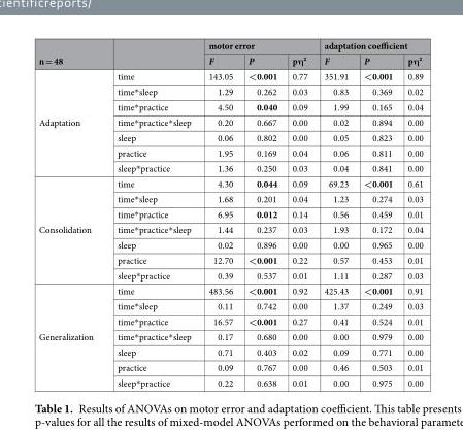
<table><thead><tr><td rowspan="2">n = 48</td><td rowspan="2"></td><td colspan="3">motor error</td><td colspan="3">adaptation coefficient</td></tr><tr><td>F</td><td>P</td><td>pη²</td><td>F</td><td>P</td><td>pη²</td></tr></thead><tbody><tr><td rowspan="7">Adaptation</td><td>time</td><td>143.05</td><td>&lt;0.001</td><td>0.77</td><td>351.91</td><td>&lt;0.001</td><td>0.89</td></tr><tr><td>time*sleep</td><td>1.29</td><td>0.262</td><td>0.03</td><td>0.83</td><td>0.369</td><td>0.02</td></tr><tr><td>time*practice</td><td>4.50</td><td>0.040</td><td>0.09</td><td>1.99</td><td>0.165</td><td>0.04</td></tr><tr><td>time*practice*sleep</td><td>0.20</td><td>0.667</td><td>0.00</td><td>0.02</td><td>0.894</td><td>0.00</td></tr><tr><td>sleep</td><td>0.06</td><td>0.802</td><td>0.00</td><td>0.05</td><td>0.823</td><td>0.00</td></tr><tr><td>practice</td><td>1.95</td><td>0.169</td><td>0.04</td><td>0.06</td><td>0.811</td><td>0.00</td></tr><tr><td>sleep*practice</td><td>1.36</td><td>0.250</td><td>0.03</td><td>0.04</td><td>0.841</td><td>0.00</td></tr><tr><td rowspan="7">Consolidation</td><td>time</td><td>4.30</td><td>0.044</td><td>0.09</td><td>69.23</td><td>&lt;0.001</td><td>0.61</td></tr><tr><td>time*sleep</td><td>1.68</td><td>0.201</td><td>0.04</td><td>1.23</td><td>0.274</td><td>0.03</td></tr><tr><td>time*practice</td><td>6.95</td><td>0.012</td><td>0.14</td><td>0.56</td><td>0.459</td><td>0.01</td></tr><tr><td>time*practice*sleep</td><td>1.44</td><td>0.237</td><td>0.03</td><td>1.93</td><td>0.172</td><td>0.04</td></tr><tr><td>sleep</td><td>0.02</td><td>0.896</td><td>0.00</td><td>0.00</td><td>0.965</td><td>0.00</td></tr><tr><td>practice</td><td>12.70</td><td>&lt;0.001</td><td>0.22</td><td>0.57</td><td>0.453</td><td>0.01</td></tr><tr><td>sleep*practice</td><td>0.39</td><td>0.537</td><td>0.01</td><td>1.11</td><td>0.287</td><td>0.03</td></tr><tr><td rowspan="7">Generalization</td><td>time</td><td>483.56</td><td>&lt;0.001</td><td>0.92</td><td>425.43</td><td>&lt;0.001</td><td>0.91</td></tr><tr><td>time*sleep</td><td>0.11</td><td>0.742</td><td>0.00</td><td>1.37</td><td>0.249</td><td>0.03</td></tr><tr><td>time*practice</td><td>16.57</td><td>&lt;0.001</td><td>0.27</td><td>0.41</td><td>0.524</td><td>0.01</td></tr><tr><td>time*practice*sleep</td><td>0.17</td><td>0.680</td><td>0.00</td><td>0.00</td><td>0.979</td><td>0.00</td></tr><tr><td>sleep</td><td>0.71</td><td>0.403</td><td>0.02</td><td>0.09</td><td>0.771</td><td>0.00</td></tr><tr><td>practice</td><td>0.09</td><td>0.767</td><td>0.00</td><td>0.46</td><td>0.503</td><td>0.01</td></tr><tr><td>sleep*practice</td><td>0.22</td><td>0.638</td><td>0.01</td><td>0.00</td><td>0.975</td><td>0.00</td></tr></tbody></table>